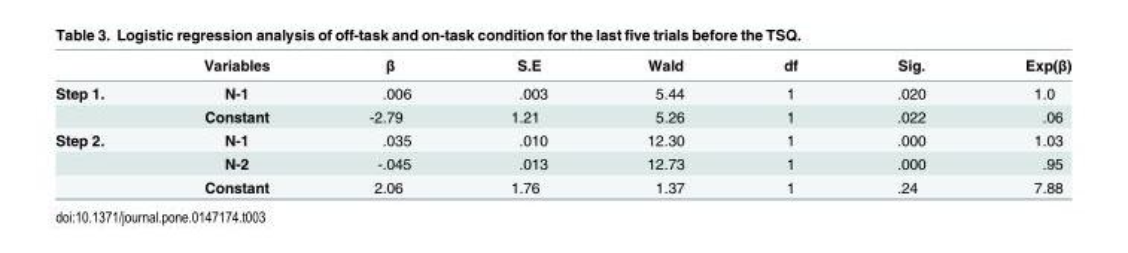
<table><thead><tr><td></td><td>Variables</td><td>β</td><td>S.E</td><td>Wald</td><td>df</td><td>Sig.</td><td>Exp(β)</td></tr></thead><tbody><tr><td rowspan="2">Step 1.</td><td>N-1</td><td>.006</td><td>.003</td><td>5.44</td><td>1</td><td>.020</td><td>1.0</td></tr><tr><td>Constant</td><td>-2.79</td><td>1.21</td><td>5.26</td><td>1</td><td>.022</td><td>.06</td></tr><tr><td rowspan="3">Step 2.</td><td>N-1</td><td>.035</td><td>.010</td><td>12.30</td><td>1</td><td>.000</td><td>1.03</td></tr><tr><td>N-2</td><td>-.045</td><td>.013</td><td>12.73</td><td>1</td><td>.000</td><td>.95</td></tr><tr><td>Constant</td><td>2.06</td><td>1.76</td><td>1.37</td><td>1</td><td>.24</td><td>7.88</td></tr></tbody></table>